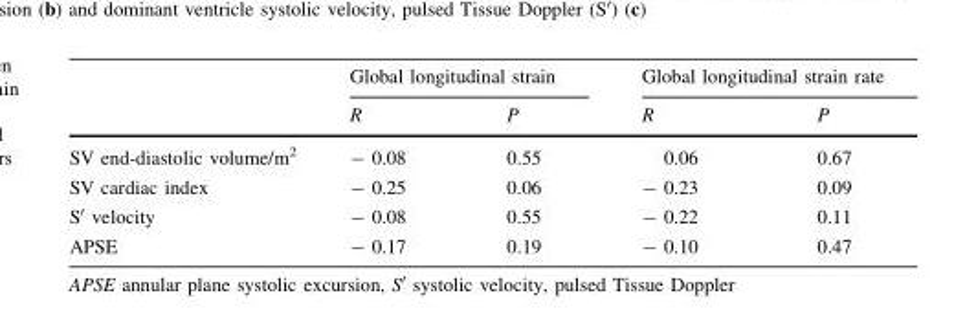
<table><thead><tr><td rowspan="2"></td><td colspan="2">Global longitudinal strain</td><td colspan="2">Global longitudinal strain rate</td></tr><tr><td>R</td><td>P</td><td>R</td><td>P</td></tr></thead><tbody><tr><td>SV end-diastolic volume/m<sup>2</sup></td><td>- 0.08</td><td>0.55</td><td>0.06</td><td>0.67</td></tr><tr><td>SV cardiac index</td><td>- 0.25</td><td>0.06</td><td>- 0.23</td><td>0.09</td></tr><tr><td>S′ velocity</td><td>- 0.08</td><td>0.55</td><td>- 0.22</td><td>0.11</td></tr><tr><td>APSE</td><td>- 0.17</td><td>0.19</td><td>- 0.10</td><td>0.47</td></tr></tbody></table>